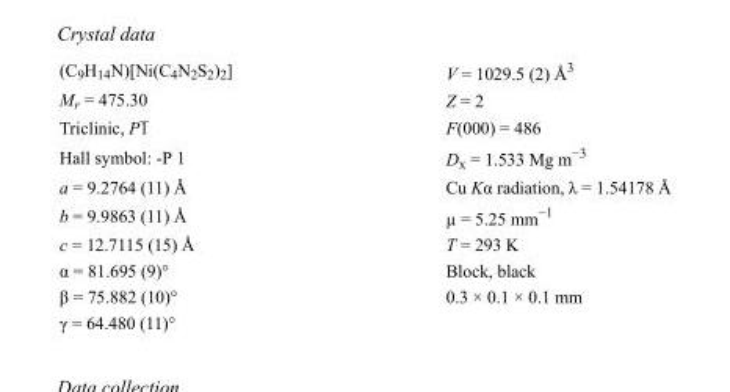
<table><tbody><tr><td>(C<sub>9</sub>H<sub>14</sub>N)[Ni(C<sub>4</sub>N<sub>2</sub>S<sub>2</sub>)<sub>2</sub>]</td><td>V = 1029.5 (2) Å<sup>3</sup></td></tr><tr><td>M<sub>r</sub> = 475.30</td><td>Z = 2</td></tr><tr><td>Triclinic, P1</td><td>F(000) = 486</td></tr><tr><td>Hall symbol: -P 1</td><td>D<sub>x</sub> = 1.533 Mg m<sup>−3</sup></td></tr><tr><td>a = 9.2764 (11) Å</td><td>Cu Kα radiation, λ = 1.54178 Å</td></tr><tr><td>b = 9.9863 (11) Å</td><td>µ = 5.25 mm<sup>−1</sup></td></tr><tr><td>c = 12.7115 (15) Å</td><td>T = 293 K</td></tr><tr><td>α = 81.695 (9)°</td><td>Block, black</td></tr><tr><td>β = 75.882 (10)°</td><td>0.3 × 0.1 × 0.1 mm</td></tr><tr><td>γ = 64.480 (11)°</td><td></td></tr></tbody></table>